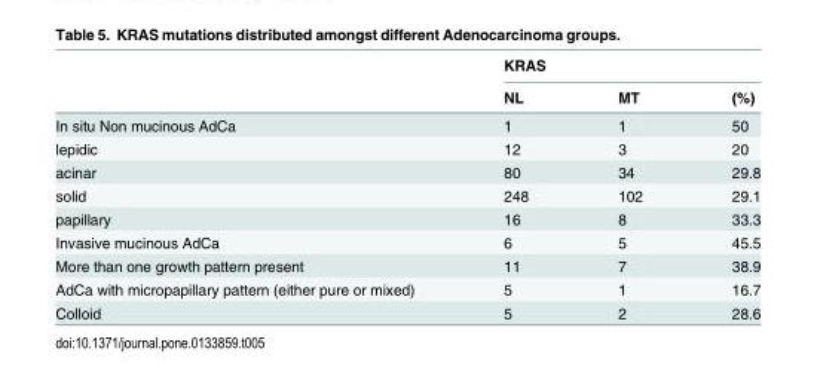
<table><thead><tr><td rowspan="2"></td><td colspan="3">KRAS</td></tr><tr><td>NL</td><td>MT</td><td>(%)</td></tr></thead><tbody><tr><td>In situ Non mucinous AdCa</td><td>1</td><td>1</td><td>50</td></tr><tr><td>lepidic</td><td>12</td><td>3</td><td>20</td></tr><tr><td>acinar</td><td>80</td><td>34</td><td>29.8</td></tr><tr><td>solid</td><td>248</td><td>102</td><td>29.1</td></tr><tr><td>papillary</td><td>16</td><td>8</td><td>33.3</td></tr><tr><td>Invasive mucinous AdCa</td><td>6</td><td>5</td><td>45.5</td></tr><tr><td>More than one growth pattern present</td><td>11</td><td>7</td><td>38.9</td></tr><tr><td>AdCa with micropapillary pattern (either pure or mixed)</td><td>5</td><td>1</td><td>16.7</td></tr><tr><td>Colloid</td><td>5</td><td>2</td><td>28.6</td></tr></tbody></table>